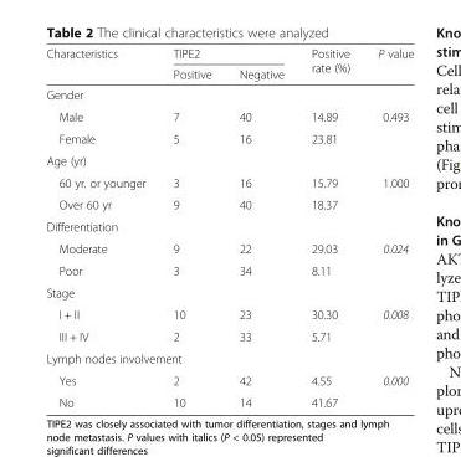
<table><thead><tr><td rowspan="2">Characteristics</td><td colspan="2">TIPE2</td><td rowspan="2">Positive rate (%)</td><td rowspan="2">P value</td></tr><tr><td>Positive</td><td>Negative</td></tr></thead><tbody><tr><td colspan="5">Gender</td></tr><tr><td>Male</td><td>7</td><td>40</td><td>14.89</td><td rowspan="2">0.493</td></tr><tr><td>Female</td><td>5</td><td>16</td><td>23.81</td></tr><tr><td colspan="5">Age (yr)</td></tr><tr><td>60 yr. or younger</td><td>3</td><td>16</td><td>15.79</td><td rowspan="2">1.000</td></tr><tr><td>Over 60 yr</td><td>9</td><td>40</td><td>18.37</td></tr><tr><td colspan="5">Differentiation</td></tr><tr><td>Moderate</td><td>9</td><td>22</td><td>29.03</td><td rowspan="2">0.024</td></tr><tr><td>Poor</td><td>3</td><td>34</td><td>8.11</td></tr><tr><td colspan="5">Stage</td></tr><tr><td>I + II</td><td>10</td><td>23</td><td>30.30</td><td rowspan="2">0.008</td></tr><tr><td>III + IV</td><td>2</td><td>33</td><td>5.71</td></tr><tr><td colspan="5">Lymph nodes involvement</td></tr><tr><td>Yes</td><td>2</td><td>42</td><td>4.55</td><td rowspan="2">0.000</td></tr><tr><td>No</td><td>10</td><td>14</td><td>41.67</td></tr></tbody></table>